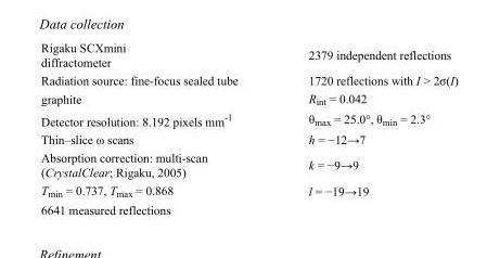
<table><tbody><tr><td>Rigaku SCXmini diffractometer</td><td>2379 independent reflections</td></tr><tr><td>Radiation source: fine-focus sealed tube</td><td>1720 reflections with I &gt; 2σ(I)</td></tr><tr><td>graphite</td><td>R<sub>int</sub> = 0.042</td></tr><tr><td>Detector resolution: 8.192 pixels mm<sup>-1</sup></td><td>θ<sub>max</sub> = 25.0°, θ<sub>min</sub> = 2.3°</td></tr><tr><td>Thin–slice ω scans</td><td>h = −12→7</td></tr><tr><td>Absorption correction: multi-scan (CrystalClear; Rigaku, 2005)</td><td>k = −9→9</td></tr><tr><td>T<sub>min</sub> = 0.737, T<sub>max</sub> = 0.868</td><td>l = −19→19</td></tr><tr><td>6641 measured reflections</td><td></td></tr></tbody></table>